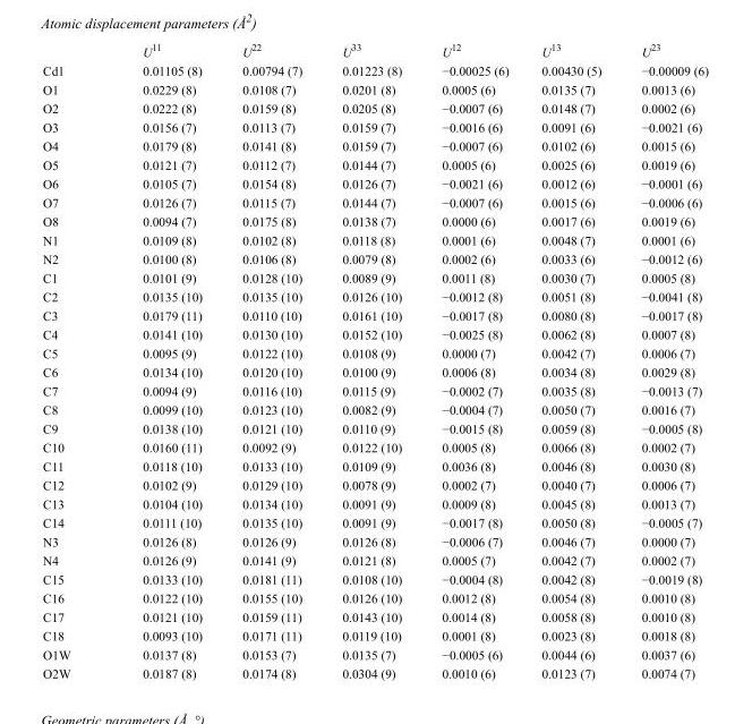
<table><thead><tr><td></td><td>U<sup>11</sup></td><td>U<sup>22</sup></td><td>U<sup>33</sup></td><td>U<sup>12</sup></td><td>U<sup>13</sup></td><td>U<sup>23</sup></td></tr></thead><tbody><tr><td>Cd1</td><td>0.01105 (8)</td><td>0.00794 (7)</td><td>0.01223 (8)</td><td>−0.00025 (6)</td><td>0.00430 (5)</td><td>−0.00009 (6)</td></tr><tr><td>O1</td><td>0.0229 (8)</td><td>0.0108 (7)</td><td>0.0201 (8)</td><td>0.0005 (6)</td><td>0.0135 (7)</td><td>0.0013 (6)</td></tr><tr><td>O2</td><td>0.0222 (8)</td><td>0.0159 (8)</td><td>0.0205 (8)</td><td>−0.0007 (6)</td><td>0.0148 (7)</td><td>0.0002 (6)</td></tr><tr><td>O3</td><td>0.0156 (7)</td><td>0.0113 (7)</td><td>0.0159 (7)</td><td>−0.0016 (6)</td><td>0.0091 (6)</td><td>−0.0021 (6)</td></tr><tr><td>O4</td><td>0.0179 (8)</td><td>0.0141 (8)</td><td>0.0159 (7)</td><td>−0.0007 (6)</td><td>0.0102 (6)</td><td>0.0015 (6)</td></tr><tr><td>O5</td><td>0.0121 (7)</td><td>0.0112 (7)</td><td>0.0144 (7)</td><td>0.0005 (6)</td><td>0.0025 (6)</td><td>0.0019 (6)</td></tr><tr><td>O6</td><td>0.0105 (7)</td><td>0.0154 (8)</td><td>0.0126 (7)</td><td>−0.0021 (6)</td><td>0.0012 (6)</td><td>−0.0001 (6)</td></tr><tr><td>O7</td><td>0.0126 (7)</td><td>0.0115 (7)</td><td>0.0144 (7)</td><td>−0.0007 (6)</td><td>0.0015 (6)</td><td>−0.0006 (6)</td></tr><tr><td>O8</td><td>0.0094 (7)</td><td>0.0175 (8)</td><td>0.0138 (7)</td><td>0.0000 (6)</td><td>0.0017 (6)</td><td>0.0019 (6)</td></tr><tr><td>N1</td><td>0.0109 (8)</td><td>0.0102 (8)</td><td>0.0118 (8)</td><td>0.0001 (6)</td><td>0.0048 (7)</td><td>0.0001 (6)</td></tr><tr><td>N2</td><td>0.0100 (8)</td><td>0.0106 (8)</td><td>0.0079 (8)</td><td>0.0002 (6)</td><td>0.0033 (6)</td><td>−0.0012 (6)</td></tr><tr><td>C1</td><td>0.0101 (9)</td><td>0.0128 (10)</td><td>0.0089 (9)</td><td>0.0011 (8)</td><td>0.0030 (7)</td><td>0.0005 (8)</td></tr><tr><td>C2</td><td>0.0135 (10)</td><td>0.0135 (10)</td><td>0.0126 (10)</td><td>−0.0012 (8)</td><td>0.0051 (8)</td><td>−0.0041 (8)</td></tr><tr><td>C3</td><td>0.0179 (11)</td><td>0.0110 (10)</td><td>0.0161 (10)</td><td>−0.0017 (8)</td><td>0.0080 (8)</td><td>−0.0017 (8)</td></tr><tr><td>C4</td><td>0.0141 (10)</td><td>0.0130 (10)</td><td>0.0152 (10)</td><td>−0.0025 (8)</td><td>0.0062 (8)</td><td>0.0007 (8)</td></tr><tr><td>C5</td><td>0.0095 (9)</td><td>0.0122 (10)</td><td>0.0108 (9)</td><td>0.0000 (7)</td><td>0.0042 (7)</td><td>0.0006 (7)</td></tr><tr><td>C6</td><td>0.0134 (10)</td><td>0.0120 (10)</td><td>0.0100 (9)</td><td>0.0006 (8)</td><td>0.0034 (8)</td><td>0.0029 (8)</td></tr><tr><td>C7</td><td>0.0094 (9)</td><td>0.0116 (10)</td><td>0.0115 (9)</td><td>−0.0002 (7)</td><td>0.0035 (8)</td><td>−0.0013 (7)</td></tr><tr><td>C8</td><td>0.0099 (10)</td><td>0.0123 (10)</td><td>0.0082 (9)</td><td>−0.0004 (7)</td><td>0.0050 (7)</td><td>0.0016 (7)</td></tr><tr><td>C9</td><td>0.0138 (10)</td><td>0.0121 (10)</td><td>0.0110 (9)</td><td>−0.0015 (8)</td><td>0.0059 (8)</td><td>−0.0005 (8)</td></tr><tr><td>C10</td><td>0.0160 (11)</td><td>0.0092 (9)</td><td>0.0122 (10)</td><td>0.0005 (8)</td><td>0.0066 (8)</td><td>0.0002 (7)</td></tr><tr><td>C11</td><td>0.0118 (10)</td><td>0.0133 (10)</td><td>0.0109 (9)</td><td>0.0036 (8)</td><td>0.0046 (8)</td><td>0.0030 (8)</td></tr><tr><td>C12</td><td>0.0102 (9)</td><td>0.0129 (10)</td><td>0.0078 (9)</td><td>0.0002 (7)</td><td>0.0040 (7)</td><td>0.0006 (7)</td></tr><tr><td>C13</td><td>0.0104 (10)</td><td>0.0134 (10)</td><td>0.0091 (9)</td><td>0.0009 (8)</td><td>0.0045 (8)</td><td>0.0013 (7)</td></tr><tr><td>C14</td><td>0.0111 (10)</td><td>0.0135 (10)</td><td>0.0091 (9)</td><td>−0.0017 (8)</td><td>0.0050 (8)</td><td>−0.0005 (7)</td></tr><tr><td>N3</td><td>0.0126 (8)</td><td>0.0126 (9)</td><td>0.0126 (8)</td><td>−0.0006 (7)</td><td>0.0046 (7)</td><td>0.0000 (7)</td></tr><tr><td>N4</td><td>0.0126 (9)</td><td>0.0141 (9)</td><td>0.0121 (8)</td><td>0.0005 (7)</td><td>0.0042 (7)</td><td>0.0002 (7)</td></tr><tr><td>C15</td><td>0.0133 (10)</td><td>0.0181 (11)</td><td>0.0108 (10)</td><td>−0.0004 (8)</td><td>0.0042 (8)</td><td>−0.0019 (8)</td></tr><tr><td>C16</td><td>0.0122 (10)</td><td>0.0155 (10)</td><td>0.0126 (10)</td><td>0.0012 (8)</td><td>0.0054 (8)</td><td>0.0010 (8)</td></tr><tr><td>C17</td><td>0.0121 (10)</td><td>0.0159 (11)</td><td>0.0143 (10)</td><td>0.0014 (8)</td><td>0.0058 (8)</td><td>0.0010 (8)</td></tr><tr><td>C18</td><td>0.0093 (10)</td><td>0.0171 (11)</td><td>0.0119 (10)</td><td>0.0001 (8)</td><td>0.0023 (8)</td><td>0.0018 (8)</td></tr><tr><td>O1W</td><td>0.0137 (8)</td><td>0.0153 (7)</td><td>0.0135 (7)</td><td>−0.0005 (6)</td><td>0.0044 (6)</td><td>0.0037 (6)</td></tr><tr><td>O2W</td><td>0.0187 (8)</td><td>0.0174 (8)</td><td>0.0304 (9)</td><td>0.0010 (6)</td><td>0.0123 (7)</td><td>0.0074 (7)</td></tr></tbody></table>